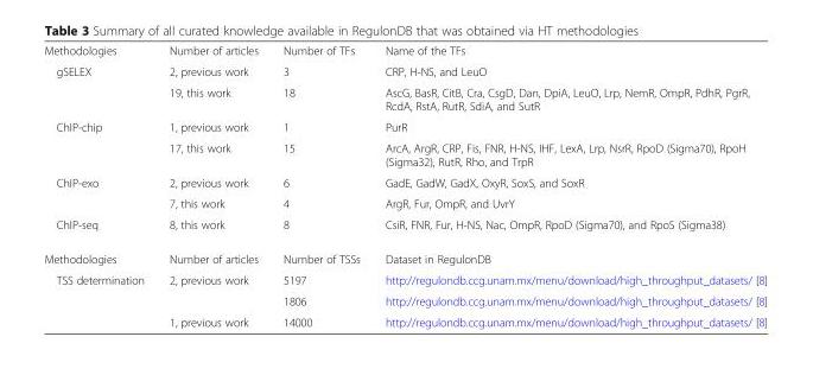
<table><tbody><tr><td>Methodologies</td><td>Number of articles</td><td>Number of TFs</td><td>Name of the TFs</td></tr><tr><td rowspan="2">gSELEX</td><td>2, previous work</td><td>3</td><td>CRP, H-NS, and LeuO</td></tr><tr><td>19, this work</td><td>18</td><td>AscG, BasR, CitB, Cra, CsgD, Dan, DpiA, LeuO, Lrp, NemR, OmpR, PdhR, PgrR, RcdA, RstA, RutR, SdiA, and SutR</td></tr><tr><td rowspan="2">ChIP-chip</td><td>1, previous work</td><td>1</td><td>PurR</td></tr><tr><td>17, this work</td><td>15</td><td>ArcA, ArgR, CRP, Fis, FNR, H-NS, IHF, LexA, Lrp, NsrR, RpoD (Sigma70), RpoH (Sigma32), RutR, Rho, and TrpR</td></tr><tr><td rowspan="2">ChIP-exo</td><td>2, previous work</td><td>6</td><td>GadE, GadW, GadX, OxyR, SoxS, and SoxR</td></tr><tr><td>7, this work</td><td>4</td><td>ArgR, Fur, OmpR, and UvrY</td></tr><tr><td>ChIP-seq</td><td>8, this work</td><td>8</td><td>CsiR, FNR, Fur, H-NS, Nac, OmpR, RpoD (Sigma70), and RpoS (Sigma38)</td></tr><tr><td>Methodologies</td><td>Number of articles</td><td>Number of TSSs</td><td>Dataset in RegulonDB</td></tr><tr><td rowspan="3">TSS determination</td><td rowspan="2">2, previous work</td><td>5197</td><td>http://regulondb.ccg.unam.mx/menu/download/high_throughput_datasets/ [8]</td></tr><tr><td>1806</td><td>http://regulondb.ccg.unam.mx/menu/download/high_throughput_datasets/ [8]</td></tr><tr><td>1, previous work</td><td>14000</td><td>http://regulondb.ccg.unam.mx/menu/download/high_throughput_datasets/ [8]</td></tr></tbody></table>